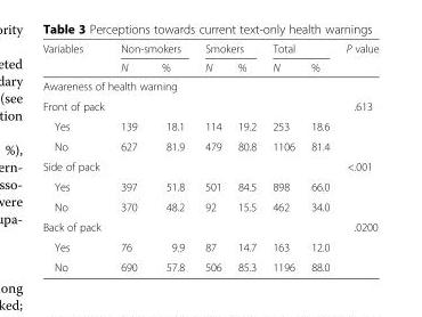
<table><thead><tr><td rowspan="2">Variables</td><td colspan="2">Non-smokers</td><td colspan="2">Smokers</td><td colspan="2">Total</td><td rowspan="2">P value</td></tr><tr><td>N</td><td>%</td><td>N</td><td>%</td><td>N</td><td>%</td></tr></thead><tbody><tr><td colspan="8">Awareness of health warning</td></tr><tr><td>Front of pack</td><td></td><td></td><td></td><td></td><td></td><td></td><td>.613</td></tr><tr><td>Yes</td><td>139</td><td>18.1</td><td>114</td><td>19.2</td><td>253</td><td>18.6</td><td></td></tr><tr><td>No</td><td>627</td><td>81.9</td><td>479</td><td>80.8</td><td>1106</td><td>81.4</td><td></td></tr><tr><td>Side of pack</td><td></td><td></td><td></td><td></td><td></td><td></td><td>&lt;.001</td></tr><tr><td>Yes</td><td>397</td><td>51.8</td><td>501</td><td>84.5</td><td>898</td><td>66.0</td><td></td></tr><tr><td>No</td><td>370</td><td>48.2</td><td>92</td><td>15.5</td><td>462</td><td>34.0</td><td></td></tr><tr><td>Back of pack</td><td></td><td></td><td></td><td></td><td></td><td></td><td>.0200</td></tr><tr><td>Yes</td><td>76</td><td>9.9</td><td>87</td><td>14.7</td><td>163</td><td>12.0</td><td></td></tr><tr><td>No</td><td>690</td><td>57.8</td><td>506</td><td>85.3</td><td>1196</td><td>88.0</td><td></td></tr></tbody></table>